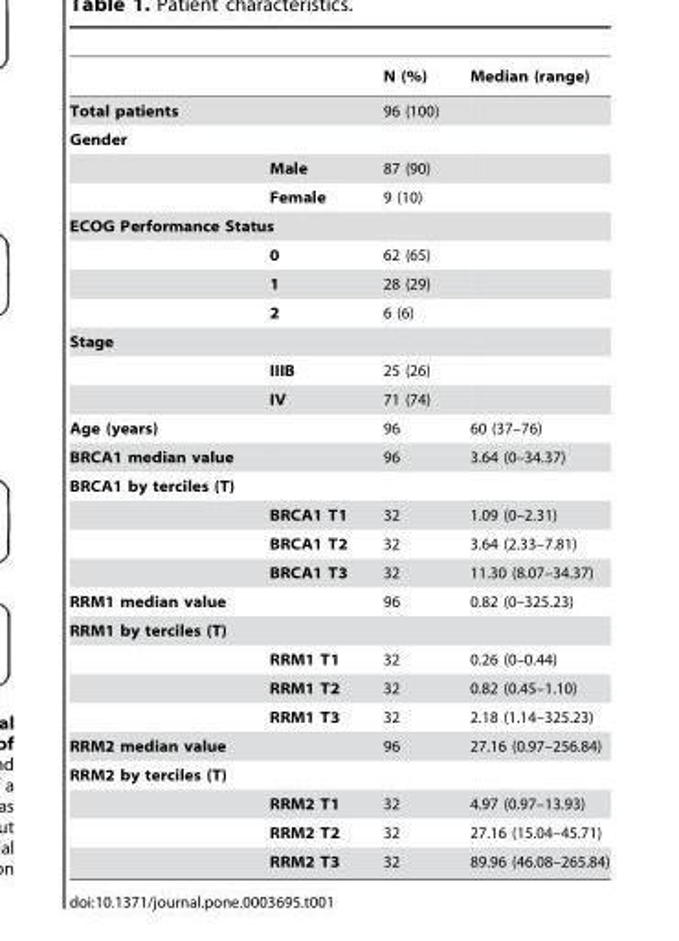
<table><thead><tr><td></td><td></td><td>N (%)</td><td>Median (range)</td></tr></thead><tbody><tr><td>Total patients</td><td></td><td>96 (100)</td><td></td></tr><tr><td colspan="4">Gender</td></tr><tr><td></td><td>Male</td><td>87 (90)</td><td></td></tr><tr><td></td><td>Female</td><td>9 (10)</td><td></td></tr><tr><td colspan="4">ECOG Performance Status</td></tr><tr><td></td><td>0</td><td>62 (65)</td><td></td></tr><tr><td></td><td>1</td><td>28 (29)</td><td></td></tr><tr><td></td><td>2</td><td>6 (6)</td><td></td></tr><tr><td colspan="4">Stage</td></tr><tr><td></td><td>IIIB</td><td>25 (26)</td><td></td></tr><tr><td></td><td>IV</td><td>71 (74)</td><td></td></tr><tr><td>Age (years)</td><td></td><td>96</td><td>60 (37–76)</td></tr><tr><td>BRCA1 median value</td><td></td><td>96</td><td>3.64 (0–34.37)</td></tr><tr><td colspan="4">BRCA1 by terciles (T)</td></tr><tr><td></td><td>BRCA1 T1</td><td>32</td><td>1.09 (0–2.31)</td></tr><tr><td></td><td>BRCA1 T2</td><td>32</td><td>3.64 (2.33–7.81)</td></tr><tr><td></td><td>BRCA1 T3</td><td>32</td><td>11.30 (8.07–34.37)</td></tr><tr><td>RRM1 median value</td><td></td><td>96</td><td>0.82 (0–325.23)</td></tr><tr><td colspan="4">RRM1 by terciles (T)</td></tr><tr><td></td><td>RRM1 T1</td><td>32</td><td>0.26 (0–0.44)</td></tr><tr><td></td><td>RRM1 T2</td><td>32</td><td>0.82 (0.45–1.10)</td></tr><tr><td></td><td>RRM1 T3</td><td>32</td><td>2.18 (1.14–325.23)</td></tr><tr><td>RRM2 median value</td><td></td><td>96</td><td>27.16 (0.97–256.84)</td></tr><tr><td colspan="4">RRM2 by terciles (T)</td></tr><tr><td></td><td>RRM2 T1</td><td>32</td><td>4.97 (0.97–13.93)</td></tr><tr><td></td><td>RRM2 T2</td><td>32</td><td>27.16 (15.04–45.71)</td></tr><tr><td></td><td>RRM2 T3</td><td>32</td><td>89.96 (46.08–265.84)</td></tr></tbody></table>